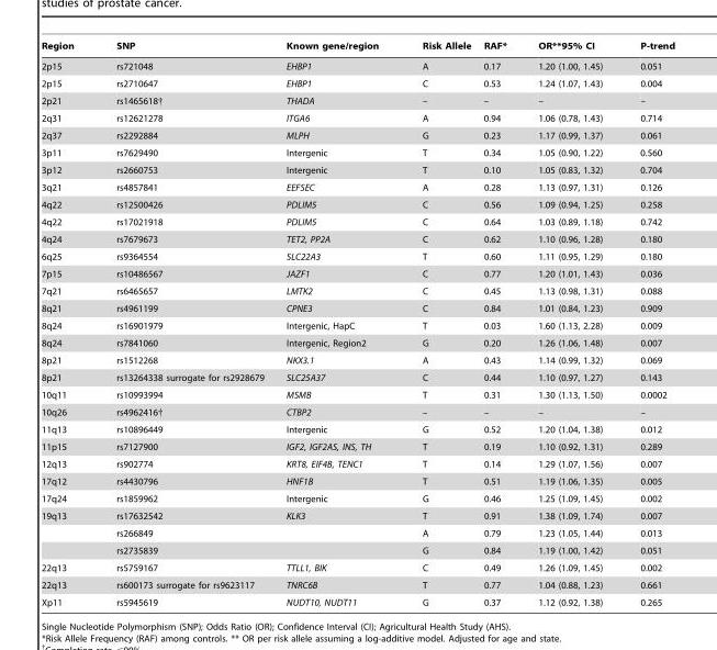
<table><thead><tr><td>Region</td><td>SNP</td><td>Known gene/region</td><td>Risk Allele</td><td>RAF*</td><td>OR**95% CI</td><td>P-trend</td></tr></thead><tbody><tr><td>2p15</td><td>rs721048</td><td>EHBP1</td><td>A</td><td>0.17</td><td>1.20 (1.00, 1.45)</td><td>0.051</td></tr><tr><td>2p15</td><td>rs2710647</td><td>EHBP1</td><td>C</td><td>0.53</td><td>1.24 (1.07, 1.43)</td><td>0.004</td></tr><tr><td>2p21</td><td>rs1465618†</td><td>THADA</td><td>–</td><td>–</td><td>–</td><td>–</td></tr><tr><td>2q31</td><td>rs12621278</td><td>ITGA6</td><td>A</td><td>0.94</td><td>1.06 (0.78, 1.43)</td><td>0.714</td></tr><tr><td>2q37</td><td>rs2292884</td><td>MLPH</td><td>G</td><td>0.23</td><td>1.17 (0.99, 1.37)</td><td>0.061</td></tr><tr><td>3p11</td><td>rs7629490</td><td>Intergenic</td><td>T</td><td>0.34</td><td>1.05 (0.90, 1.22)</td><td>0.560</td></tr><tr><td>3p12</td><td>rs2660753</td><td>Intergenic</td><td>T</td><td>0.10</td><td>1.05 (0.83, 1.32)</td><td>0.704</td></tr><tr><td>3q21</td><td>rs4857841</td><td>EEFSEC</td><td>A</td><td>0.28</td><td>1.13 (0.97, 1.31)</td><td>0.126</td></tr><tr><td>4q22</td><td>rs12500426</td><td>PDLIM5</td><td>C</td><td>0.56</td><td>1.09 (0.94, 1.25)</td><td>0.258</td></tr><tr><td>4q22</td><td>rs17021918</td><td>PDLIM5</td><td>C</td><td>0.64</td><td>1.03 (0.89, 1.18)</td><td>0.742</td></tr><tr><td>4q24</td><td>rs7679673</td><td>TET2, PP2A</td><td>C</td><td>0.62</td><td>1.10 (0.96, 1.28)</td><td>0.180</td></tr><tr><td>6q25</td><td>rs9364554</td><td>SLC22A3</td><td>T</td><td>0.60</td><td>1.11 (0.95, 1.29)</td><td>0.180</td></tr><tr><td>7p15</td><td>rs10486567</td><td>JAZF1</td><td>C</td><td>0.77</td><td>1.20 (1.01, 1.43)</td><td>0.036</td></tr><tr><td>7q21</td><td>rs6465657</td><td>LMTK2</td><td>C</td><td>0.45</td><td>1.13 (0.98, 1.31)</td><td>0.088</td></tr><tr><td>8q21</td><td>rs4961199</td><td>CPNE3</td><td>C</td><td>0.84</td><td>1.01 (0.84, 1.23)</td><td>0.909</td></tr><tr><td>8q24</td><td>rs16901979</td><td>Intergenic, HapC</td><td>T</td><td>0.03</td><td>1.60 (1.13, 2.28)</td><td>0.009</td></tr><tr><td>8q24</td><td>rs7841060</td><td>Intergenic, Region2</td><td>G</td><td>0.20</td><td>1.26 (1.06, 1.48)</td><td>0.007</td></tr><tr><td>8p21</td><td>rs1512268</td><td>NKX3.1</td><td>A</td><td>0.43</td><td>1.14 (0.99, 1.32)</td><td>0.069</td></tr><tr><td>8p21</td><td>rs13264338 surrogate for rs2928679</td><td>SLC25A37</td><td>C</td><td>0.44</td><td>1.10 (0.97, 1.27)</td><td>0.143</td></tr><tr><td>10q11</td><td>rs10993994</td><td>MSMB</td><td>T</td><td>0.31</td><td>1.30 (1.13, 1.50)</td><td>0.0002</td></tr><tr><td>10q26</td><td>rs4962416†</td><td>CTBP2</td><td>–</td><td>–</td><td>–</td><td>–</td></tr><tr><td>11q13</td><td>rs10896449</td><td>Intergenic</td><td>G</td><td>0.52</td><td>1.20 (1.04, 1.38)</td><td>0.012</td></tr><tr><td>11p15</td><td>rs7127900</td><td>IGF2, IGF2AS, INS, TH</td><td>T</td><td>0.19</td><td>1.10 (0.92, 1.31)</td><td>0.289</td></tr><tr><td>12q13</td><td>rs902774</td><td>KRT8, EIF4B, TENC1</td><td>T</td><td>0.14</td><td>1.29 (1.07, 1.56)</td><td>0.007</td></tr><tr><td>17q12</td><td>rs4430796</td><td>HNF1B</td><td>T</td><td>0.51</td><td>1.19 (1.06, 1.35)</td><td>0.005</td></tr><tr><td>17q24</td><td>rs1859962</td><td>Intergenic</td><td>G</td><td>0.46</td><td>1.25 (1.09, 1.45)</td><td>0.002</td></tr><tr><td rowspan="3">19q13</td><td>rs17632542</td><td>KLK3</td><td>T</td><td>0.91</td><td>1.38 (1.09, 1.74)</td><td>0.007</td></tr><tr><td>rs266849</td><td></td><td>A</td><td>0.79</td><td>1.23 (1.05, 1.44)</td><td>0.013</td></tr><tr><td>rs2735839</td><td></td><td>G</td><td>0.84</td><td>1.19 (1.00, 1.42)</td><td>0.051</td></tr><tr><td>22q13</td><td>rs5759167</td><td>TTLL1, BIK</td><td>C</td><td>0.49</td><td>1.26 (1.09, 1.45)</td><td>0.002</td></tr><tr><td>22q13</td><td>rs600173 surrogate for rs9623117</td><td>TNRC6B</td><td>T</td><td>0.77</td><td>1.04 (0.88, 1.23)</td><td>0.661</td></tr><tr><td>Xp11</td><td>rs5945619</td><td>NUDT10, NUDT11</td><td>G</td><td>0.37</td><td>1.12 (0.92, 1.38)</td><td>0.265</td></tr></tbody></table>